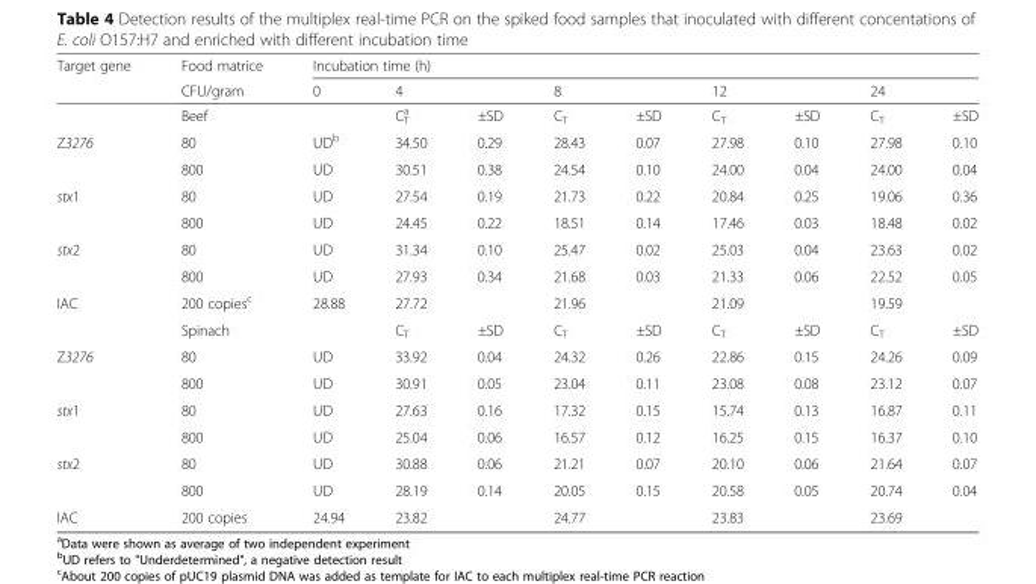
<table><thead><tr><td rowspan="2">Target gene</td><td rowspan="2">Food matrice CFU/gram</td><td colspan="9">Incubation time (h)</td></tr><tr><td>0</td><td>4</td><td></td><td>8</td><td></td><td>12</td><td></td><td>24</td><td></td></tr></thead><tbody><tr><td></td><td>Beef</td><td></td><td>C<sub>T</sub> <sup>a</sup></td><td>±SD</td><td>C<sub>T</sub></td><td>±SD</td><td>C<sub>T</sub></td><td>±SD</td><td>C<sub>T</sub></td><td>±SD</td></tr><tr><td rowspan="2">Z3276</td><td>80</td><td>UD<sup>b</sup></td><td>34.50</td><td>0.29</td><td>28.43</td><td>0.07</td><td>27.98</td><td>0.10</td><td>27.98</td><td>0.10</td></tr><tr><td>800</td><td>UD</td><td>30.51</td><td>0.38</td><td>24.54</td><td>0.10</td><td>24.00</td><td>0.04</td><td>24.00</td><td>0.04</td></tr><tr><td rowspan="2">stx1</td><td>80</td><td>UD</td><td>27.54</td><td>0.19</td><td>21.73</td><td>0.22</td><td>20.84</td><td>0.25</td><td>19.06</td><td>0.36</td></tr><tr><td>800</td><td>UD</td><td>24.45</td><td>0.22</td><td>18.51</td><td>0.14</td><td>17.46</td><td>0.03</td><td>18.48</td><td>0.02</td></tr><tr><td rowspan="2">stx2</td><td>80</td><td>UD</td><td>31.34</td><td>0.10</td><td>25.47</td><td>0.02</td><td>25.03</td><td>0.04</td><td>23.63</td><td>0.02</td></tr><tr><td>800</td><td>UD</td><td>27.93</td><td>0.34</td><td>21.68</td><td>0.03</td><td>21.33</td><td>0.06</td><td>22.52</td><td>0.05</td></tr><tr><td rowspan="2">IAC</td><td>200 copies<sup>c</sup></td><td>28.88</td><td>27.72</td><td></td><td>21.96</td><td></td><td>21.09</td><td></td><td>19.59</td><td></td></tr><tr><td>Spinach</td><td></td><td>C<sub>T</sub></td><td>±SD</td><td>C<sub>T</sub></td><td>±SD</td><td>C<sub>T</sub></td><td>±SD</td><td>C<sub>T</sub></td><td>±SD</td></tr><tr><td rowspan="2">Z3276</td><td>80</td><td>UD</td><td>33.92</td><td>0.04</td><td>24.32</td><td>0.26</td><td>22.86</td><td>0.15</td><td>24.26</td><td>0.09</td></tr><tr><td>800</td><td>UD</td><td>30.91</td><td>0.05</td><td>23.04</td><td>0.11</td><td>23.08</td><td>0.08</td><td>23.12</td><td>0.07</td></tr><tr><td rowspan="2">stx1</td><td>80</td><td>UD</td><td>27.63</td><td>0.16</td><td>17.32</td><td>0.15</td><td>15.74</td><td>0.13</td><td>16.87</td><td>0.11</td></tr><tr><td>800</td><td>UD</td><td>25.04</td><td>0.06</td><td>16.57</td><td>0.12</td><td>16.25</td><td>0.15</td><td>16.37</td><td>0.10</td></tr><tr><td rowspan="2">stx2</td><td>80</td><td>UD</td><td>30.88</td><td>0.06</td><td>21.21</td><td>0.07</td><td>20.10</td><td>0.06</td><td>21.64</td><td>0.07</td></tr><tr><td>800</td><td>UD</td><td>28.19</td><td>0.14</td><td>20.05</td><td>0.15</td><td>20.58</td><td>0.05</td><td>20.74</td><td>0.04</td></tr><tr><td>IAC</td><td>200 copies</td><td>24.94</td><td>23.82</td><td></td><td>24.77</td><td></td><td>23.83</td><td></td><td>23.69</td><td></td></tr></tbody></table>